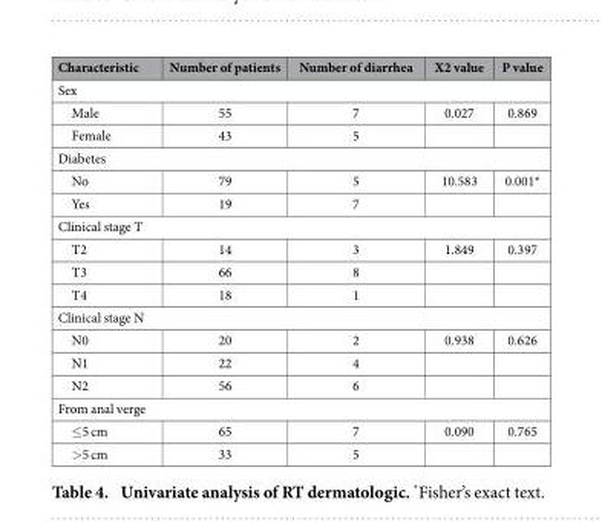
<table><thead><tr><td>Characteristic</td><td>Number of patients</td><td>Number of diarrhea</td><td>X2 value</td><td>P value</td></tr></thead><tbody><tr><td colspan="5">Sex</td></tr><tr><td>Male</td><td>55</td><td>7</td><td>0.027</td><td>0.869</td></tr><tr><td>Female</td><td>43</td><td>5</td><td></td><td></td></tr><tr><td colspan="5">Diabetes</td></tr><tr><td>No</td><td>79</td><td>5</td><td>10.583</td><td>0.001*</td></tr><tr><td>Yes</td><td>19</td><td>7</td><td></td><td></td></tr><tr><td colspan="5">Clinical stage T</td></tr><tr><td>T2</td><td>14</td><td>3</td><td>1.849</td><td>0.397</td></tr><tr><td>T3</td><td>66</td><td>8</td><td></td><td></td></tr><tr><td>T4</td><td>18</td><td>1</td><td></td><td></td></tr><tr><td colspan="5">Clinical stage N</td></tr><tr><td>N0</td><td>20</td><td>2</td><td>0.938</td><td>0.626</td></tr><tr><td>N1</td><td>22</td><td>4</td><td></td><td></td></tr><tr><td>N2</td><td>56</td><td>6</td><td></td><td></td></tr><tr><td colspan="5">From anal verge</td></tr><tr><td>≤ 5 cm</td><td>65</td><td>7</td><td>0.090</td><td>0.765</td></tr><tr><td>&gt; 5 cm</td><td>33</td><td>5</td><td></td><td></td></tr></tbody></table>